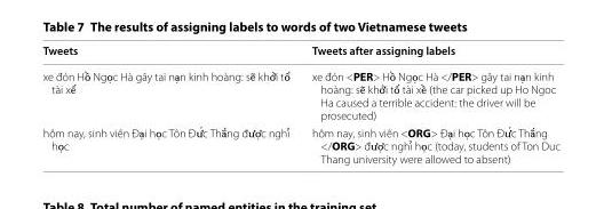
<table><thead><tr><td>Tweets</td><td>Tweets after assigning labels</td></tr></thead><tbody><tr><td>xe đón Hồ Ngọc Hà gây tai nạn kinh hoàng: sẽ khởi tố tài xế</td><td>xe đón &lt;PER&gt; Hồ Ngọc Hà &lt;/PER&gt; gây tai nạn kinh hoàng: sẽ khởi tố tài xề (the car picked up Ho Ngoc Ha caused a terrible accident: the driver will be prosecuted)</td></tr><tr><td>hôm nay, sinh viên Đại học Tôn Đức Thắng được nghı̉ học</td><td>hôm nay, sinh viên &lt;ORG&gt; Đại học Tôn Đức Thắng &lt;/ORG&gt; được nghı̉ học (today, students of Ton Duc Thang university were allowed to absent)</td></tr></tbody></table>